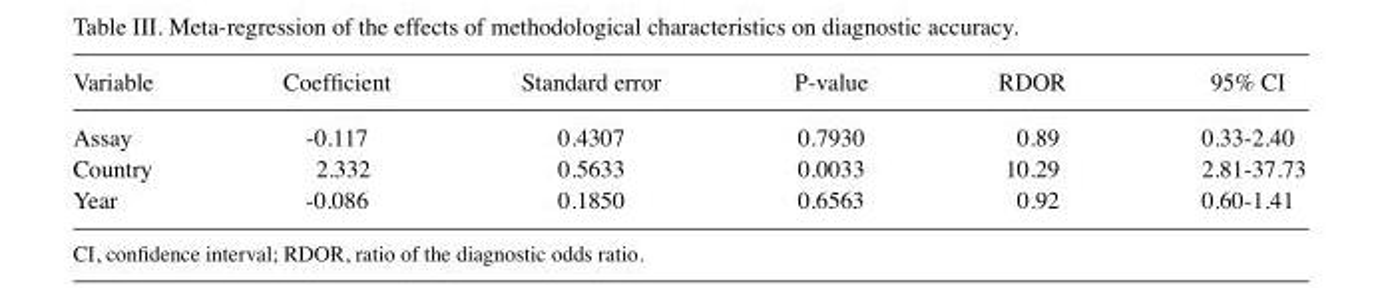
<table><thead><tr><td>Variable</td><td>Coefficient</td><td>Standard error</td><td>P‑value</td><td>RDOR</td><td>95% CI</td></tr></thead><tbody><tr><td>Assay</td><td>-0.117</td><td>0.4307</td><td>0.7930</td><td>0.89</td><td>0.33-2.40</td></tr><tr><td>Country</td><td>2.332</td><td>0.5633</td><td>0.0033</td><td>10.29</td><td>2.81-37.73</td></tr><tr><td>Year</td><td>-0.086</td><td>0.1850</td><td>0.6563</td><td>0.92</td><td>0.60-1.41</td></tr></tbody></table>